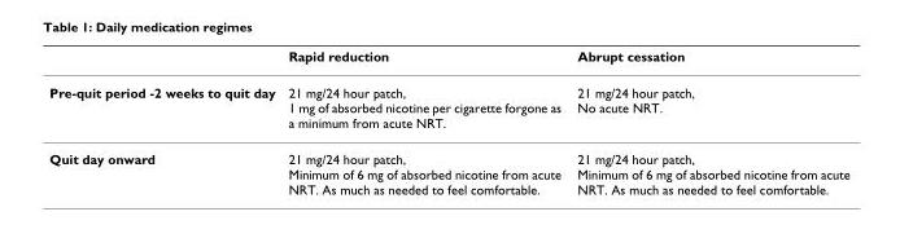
<table><thead><tr><td></td><td>Rapid reduction</td><td>Abrupt cessation</td></tr></thead><tbody><tr><td>Pre-quit period -2 weeks to quit day</td><td>21 mg/24 hour patch, 1 mg of absorbed nicotine per cigarette forgone as a minimum from acute NRT.</td><td>21 mg/24 hour patch, No acute NRT.</td></tr><tr><td>Quit day onward</td><td>21 mg/24 hour patch, Minimum of 6 mg of absorbed nicotine from acute NRT. As much as needed to feel comfortable.</td><td>21 mg/24 hour patch, Minimum of 6 mg of absorbed nicotine from acute NRT. As much as needed to feel comfortable.</td></tr></tbody></table>